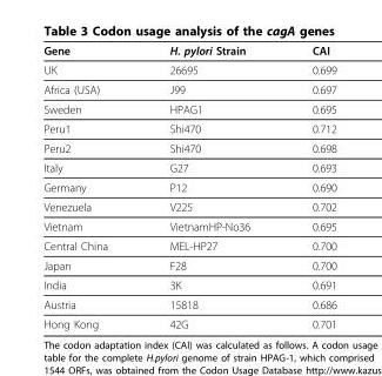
<table><thead><tr><td>Gene</td><td>H. pylori Strain</td><td>CAI</td></tr></thead><tbody><tr><td>UK</td><td>26695</td><td>0.699</td></tr><tr><td>Africa (USA)</td><td>J99</td><td>0.697</td></tr><tr><td>Sweden</td><td>HPAG1</td><td>0.695</td></tr><tr><td>Peru1</td><td>Shi470</td><td>0.712</td></tr><tr><td>Peru2</td><td>Shi470</td><td>0.698</td></tr><tr><td>Italy</td><td>G27</td><td>0.693</td></tr><tr><td>Germany</td><td>P12</td><td>0.690</td></tr><tr><td>Venezuela</td><td>V225</td><td>0.702</td></tr><tr><td>Vietnam</td><td>VietnamHP-No36</td><td>0.695</td></tr><tr><td>Central China</td><td>MEL-HP27</td><td>0.700</td></tr><tr><td>Japan</td><td>F28</td><td>0.700</td></tr><tr><td>India</td><td>3K</td><td>0.691</td></tr><tr><td>Austria</td><td>15818</td><td>0.686</td></tr><tr><td>Hong Kong</td><td>42G</td><td>0.701</td></tr></tbody></table>